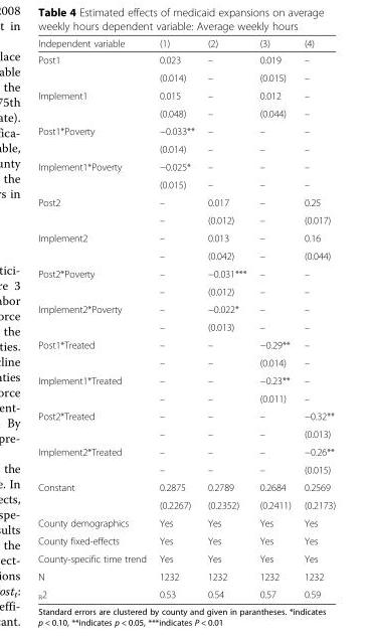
<table><thead><tr><td>Independent variable</td><td>(1)</td><td>(2)</td><td>(3)</td><td>(4)</td></tr></thead><tbody><tr><td rowspan="2">Post1</td><td>0.023</td><td>–</td><td>0.019</td><td>–</td></tr><tr><td>(0.014)</td><td>–</td><td>(0.015)</td><td>–</td></tr><tr><td rowspan="2">Implement1</td><td>0.015</td><td>–</td><td>0.012</td><td>–</td></tr><tr><td>(0.048)</td><td>–</td><td>(0.044)</td><td>–</td></tr><tr><td rowspan="2">Post1*Poverty</td><td>−0.033**</td><td>–</td><td>–</td><td>–</td></tr><tr><td>(0.014)</td><td>–</td><td>–</td><td>–</td></tr><tr><td rowspan="2">Implement1*Poverty</td><td>−0.025*</td><td>–</td><td>–</td><td>–</td></tr><tr><td>(0.015)</td><td>–</td><td>–</td><td>–</td></tr><tr><td rowspan="2">Post2</td><td>–</td><td>0.017</td><td>–</td><td>0.25</td></tr><tr><td>–</td><td>(0.012)</td><td>–</td><td>(0.017)</td></tr><tr><td rowspan="2">Implement2</td><td>–</td><td>0.013</td><td>–</td><td>0.16</td></tr><tr><td>–</td><td>(0.042)</td><td>–</td><td>(0.044)</td></tr><tr><td rowspan="2">Post2*Poverty</td><td>–</td><td>−0.031***</td><td>–</td><td>–</td></tr><tr><td>–</td><td>(0.012)</td><td>–</td><td>–</td></tr><tr><td rowspan="2">Implement2*Poverty</td><td>–</td><td>−0.022*</td><td>–</td><td>–</td></tr><tr><td>–</td><td>(0.013)</td><td>–</td><td>–</td></tr><tr><td rowspan="2">Post1*Treated</td><td>–</td><td>–</td><td>−0.29**</td><td>–</td></tr><tr><td>–</td><td>–</td><td>(0.014)</td><td>–</td></tr><tr><td rowspan="2">Implement1*Treated</td><td>–</td><td>–</td><td>−0.23**</td><td>–</td></tr><tr><td>–</td><td>–</td><td>(0.011)</td><td>–</td></tr><tr><td rowspan="2">Post2*Treated</td><td>–</td><td>–</td><td>–</td><td>−0.32**</td></tr><tr><td>–</td><td>–</td><td>–</td><td>(0.013)</td></tr><tr><td rowspan="2">Implement2*Treated</td><td>–</td><td>–</td><td>–</td><td>−0.26**</td></tr><tr><td>–</td><td>–</td><td>–</td><td>(0.015)</td></tr><tr><td rowspan="2">Constant</td><td>0.2875</td><td>0.2789</td><td>0.2684</td><td>0.2569</td></tr><tr><td>(0.2267)</td><td>(0.2352)</td><td>(0.2411)</td><td>(0.2173)</td></tr><tr><td>County demographics</td><td>Yes</td><td>Yes</td><td>Yes</td><td>Yes</td></tr><tr><td>County fixed-effects</td><td>Yes</td><td>Yes</td><td>Yes</td><td>Yes</td></tr><tr><td>County-specific time trend</td><td>Yes</td><td>Yes</td><td>Yes</td><td>Yes</td></tr><tr><td>N</td><td>1232</td><td>1232</td><td>1232</td><td>1232</td></tr><tr><td><sub>R</sub>2</td><td>0.53</td><td>0.54</td><td>0.57</td><td>0.59</td></tr></tbody></table>